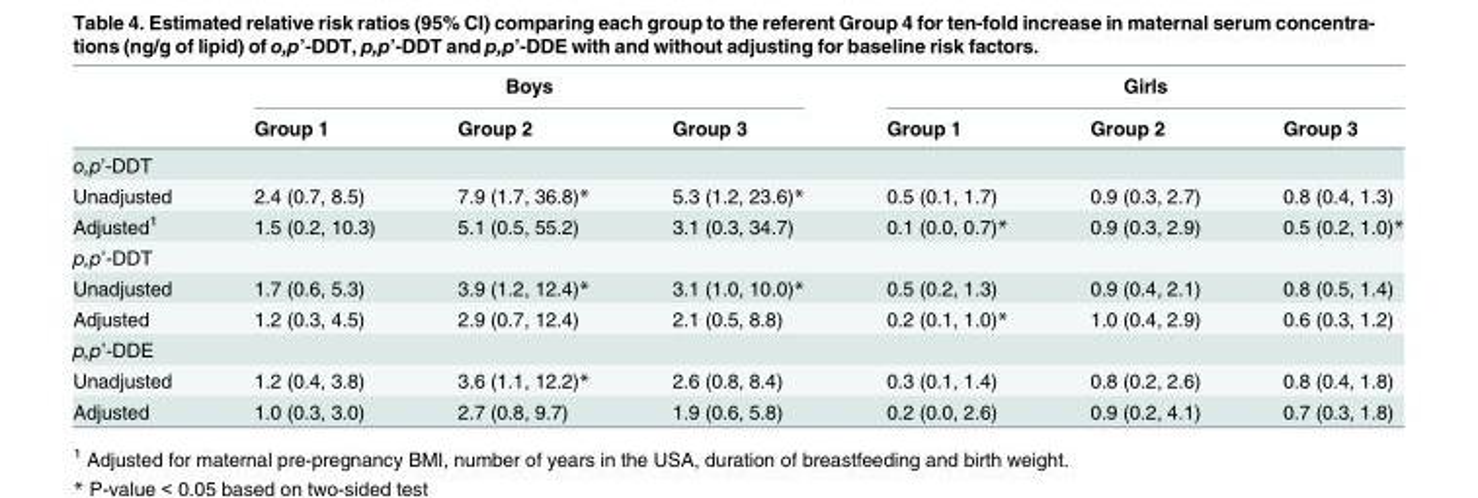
<table><thead><tr><td rowspan="2"></td><td colspan="3">Boys</td><td colspan="3">Girls</td></tr><tr><td>Group 1</td><td>Group 2</td><td>Group 3</td><td>Group 1</td><td>Group 2</td><td>Group 3</td></tr></thead><tbody><tr><td colspan="7">o,p’-DDT</td></tr><tr><td>Unadjusted</td><td>2.4 (0.7, 8.5)</td><td>7.9 (1.7, 36.8)*</td><td>5.3 (1.2, 23.6)*</td><td>0.5 (0.1, 1.7)</td><td>0.9 (0.3, 2.7)</td><td>0.8 (0.4, 1.3)</td></tr><tr><td>Adjusted<sup>1</sup></td><td>1.5 (0.2, 10.3)</td><td>5.1 (0.5, 55.2)</td><td>3.1 (0.3, 34.7)</td><td>0.1 (0.0, 0.7)*</td><td>0.9 (0.3, 2.9)</td><td>0.5 (0.2, 1.0)*</td></tr><tr><td colspan="7">p,p’-DDT</td></tr><tr><td>Unadjusted</td><td>1.7 (0.6, 5.3)</td><td>3.9 (1.2, 12.4)*</td><td>3.1 (1.0, 10.0)*</td><td>0.5 (0.2, 1.3)</td><td>0.9 (0.4, 2.1)</td><td>0.8 (0.5, 1.4)</td></tr><tr><td>Adjusted</td><td>1.2 (0.3, 4.5)</td><td>2.9 (0.7, 12.4)</td><td>2.1 (0.5, 8.8)</td><td>0.2 (0.1, 1.0)*</td><td>1.0 (0.4, 2.9)</td><td>0.6 (0.3, 1.2)</td></tr><tr><td colspan="7">p,p’-DDE</td></tr><tr><td>Unadjusted</td><td>1.2 (0.4, 3.8)</td><td>3.6 (1.1, 12.2)*</td><td>2.6 (0.8, 8.4)</td><td>0.3 (0.1, 1.4)</td><td>0.8 (0.2, 2.6)</td><td>0.8 (0.4, 1.8)</td></tr><tr><td>Adjusted</td><td>1.0 (0.3, 3.0)</td><td>2.7 (0.8, 9.7)</td><td>1.9 (0.6, 5.8)</td><td>0.2 (0.0, 2.6)</td><td>0.9 (0.2, 4.1)</td><td>0.7 (0.3, 1.8)</td></tr></tbody></table>